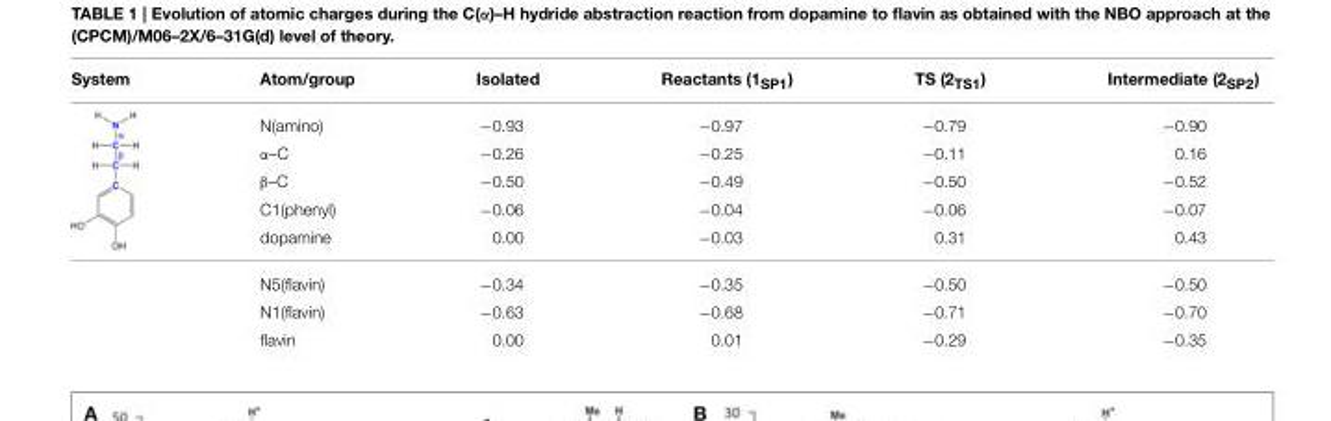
<table><thead><tr><td>System</td><td>Atom/group</td><td>Isolated</td><td>Reactants (1<sub>SP1</sub>)</td><td>TS (2<sub>TS1</sub>)</td><td>Intermediate (2<sub>SP2</sub>)</td></tr></thead><tbody><tr><td rowspan="5"></td><td>N(amino)</td><td>−0.93</td><td>−0.97</td><td>−0.79</td><td>−0.90</td></tr><tr><td>α–C</td><td>−0.26</td><td>−0.25</td><td>−0.11</td><td>0.16</td></tr><tr><td>β–C</td><td>−0.50</td><td>−0.49</td><td>−0.50</td><td>−0.52</td></tr><tr><td>C1(phenyl)</td><td>−0.06</td><td>−0.04</td><td>−0.06</td><td>−0.07</td></tr><tr><td>dopamine</td><td>0.00</td><td>−0.03</td><td>0.31</td><td>0.43</td></tr><tr><td></td><td>N5(flavin)</td><td>−0.34</td><td>−0.35</td><td>−0.50</td><td>−0.50</td></tr><tr><td></td><td>N1(flavin)</td><td>−0.63</td><td>−0.68</td><td>−0.71</td><td>−0.70</td></tr><tr><td></td><td>flavin</td><td>0.00</td><td>0.01</td><td>−0.29</td><td>−0.35</td></tr></tbody></table>